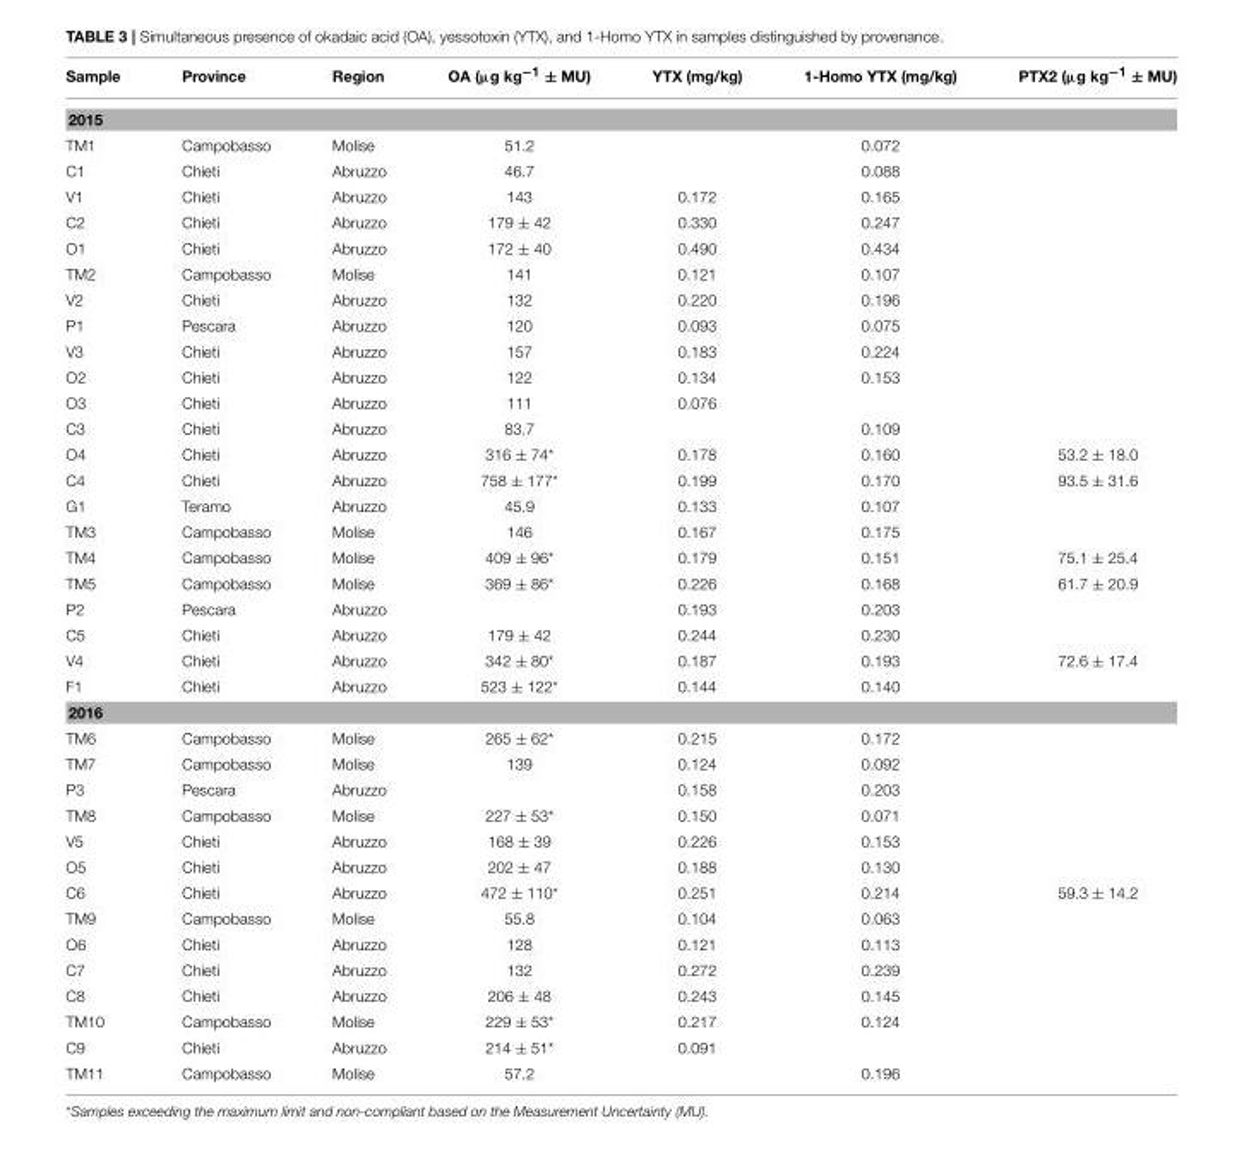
<table><thead><tr><td>Sample</td><td>Province</td><td>Region</td><td>OA (µg kg<sup>−1</sup> ± MU)</td><td>YTX (mg/kg)</td><td>1-Homo YTX (mg/kg)</td><td>PTX2 (µg kg<sup>−1</sup> ± MU)</td></tr></thead><tbody><tr><td colspan="7">2015</td></tr><tr><td>TM1</td><td>Campobasso</td><td>Molise</td><td>51.2</td><td></td><td>0.072</td><td></td></tr><tr><td>C1</td><td>Chieti</td><td>Abruzzo</td><td>46.7</td><td></td><td>0.088</td><td></td></tr><tr><td>V1</td><td>Chieti</td><td>Abruzzo</td><td>143</td><td>0.172</td><td>0.165</td><td></td></tr><tr><td>C2</td><td>Chieti</td><td>Abruzzo</td><td>179 ± 42</td><td>0.330</td><td>0.247</td><td></td></tr><tr><td>O1</td><td>Chieti</td><td>Abruzzo</td><td>172 ± 40</td><td>0.490</td><td>0.434</td><td></td></tr><tr><td>TM2</td><td>Campobasso</td><td>Molise</td><td>141</td><td>0.121</td><td>0.107</td><td></td></tr><tr><td>V2</td><td>Chieti</td><td>Abruzzo</td><td>132</td><td>0.220</td><td>0.196</td><td></td></tr><tr><td>P1</td><td>Pescara</td><td>Abruzzo</td><td>120</td><td>0.093</td><td>0.075</td><td></td></tr><tr><td>V3</td><td>Chieti</td><td>Abruzzo</td><td>157</td><td>0.183</td><td>0.224</td><td></td></tr><tr><td>O2</td><td>Chieti</td><td>Abruzzo</td><td>122</td><td>0.134</td><td>0.153</td><td></td></tr><tr><td>O3</td><td>Chieti</td><td>Abruzzo</td><td>111</td><td>0.076</td><td></td><td></td></tr><tr><td>C3</td><td>Chieti</td><td>Abruzzo</td><td>83.7</td><td></td><td>0.109</td><td></td></tr><tr><td>O4</td><td>Chieti</td><td>Abruzzo</td><td>316 ± 74*</td><td>0.178</td><td>0.160</td><td>53.2 ± 18.0</td></tr><tr><td>C4</td><td>Chieti</td><td>Abruzzo</td><td>758 ± 177*</td><td>0.199</td><td>0.170</td><td>93.5 ± 31.6</td></tr><tr><td>G1</td><td>Teramo</td><td>Abruzzo</td><td>45.9</td><td>0.133</td><td>0.107</td><td></td></tr><tr><td>TM3</td><td>Campobasso</td><td>Molise</td><td>146</td><td>0.167</td><td>0.175</td><td></td></tr><tr><td>TM4</td><td>Campobasso</td><td>Molise</td><td>409 ± 96*</td><td>0.179</td><td>0.151</td><td>75.1 ± 25.4</td></tr><tr><td>TM5</td><td>Campobasso</td><td>Molise</td><td>369 ± 86*</td><td>0.226</td><td>0.168</td><td>61.7 ± 20.9</td></tr><tr><td>P2</td><td>Pescara</td><td>Abruzzo</td><td></td><td>0.193</td><td>0.203</td><td></td></tr><tr><td>C5</td><td>Chieti</td><td>Abruzzo</td><td>179 ± 42</td><td>0.244</td><td>0.230</td><td></td></tr><tr><td>V4</td><td>Chieti</td><td>Abruzzo</td><td>342 ± 80*</td><td>0.187</td><td>0.193</td><td>72.6 ± 17.4</td></tr><tr><td>F1</td><td>Chieti</td><td>Abruzzo</td><td>523 ± 122*</td><td>0.144</td><td>0.140</td><td></td></tr><tr><td colspan="7">2016</td></tr><tr><td>TM6</td><td>Campobasso</td><td>Molise</td><td>265 ± 62*</td><td>0.215</td><td>0.172</td><td></td></tr><tr><td>TM7</td><td>Campobasso</td><td>Molise</td><td>139</td><td>0.124</td><td>0.092</td><td></td></tr><tr><td>P3</td><td>Pescara</td><td>Abruzzo</td><td></td><td>0.158</td><td>0.203</td><td></td></tr><tr><td>TM8</td><td>Campobasso</td><td>Molise</td><td>227 ± 53*</td><td>0.150</td><td>0.071</td><td></td></tr><tr><td>V5</td><td>Chieti</td><td>Abruzzo</td><td>168 ± 39</td><td>0.226</td><td>0.153</td><td></td></tr><tr><td>O5</td><td>Chieti</td><td>Abruzzo</td><td>202 ± 47</td><td>0.188</td><td>0.130</td><td></td></tr><tr><td>C6</td><td>Chieti</td><td>Abruzzo</td><td>472 ± 110*</td><td>0.251</td><td>0.214</td><td>59.3 ± 14.2</td></tr><tr><td>TM9</td><td>Campobasso</td><td>Molise</td><td>55.8</td><td>0.104</td><td>0.063</td><td></td></tr><tr><td>O6</td><td>Chieti</td><td>Abruzzo</td><td>128</td><td>0.121</td><td>0.113</td><td></td></tr><tr><td>C7</td><td>Chieti</td><td>Abruzzo</td><td>132</td><td>0.272</td><td>0.239</td><td></td></tr><tr><td>C8</td><td>Chieti</td><td>Abruzzo</td><td>206 ± 48</td><td>0.243</td><td>0.145</td><td></td></tr><tr><td>TM10</td><td>Campobasso</td><td>Molise</td><td>229 ± 53*</td><td>0.217</td><td>0.124</td><td></td></tr><tr><td>C9</td><td>Chieti</td><td>Abruzzo</td><td>214 ± 51*</td><td>0.091</td><td></td><td></td></tr><tr><td>TM11</td><td>Campobasso</td><td>Molise</td><td>57.2</td><td></td><td>0.196</td><td></td></tr></tbody></table>